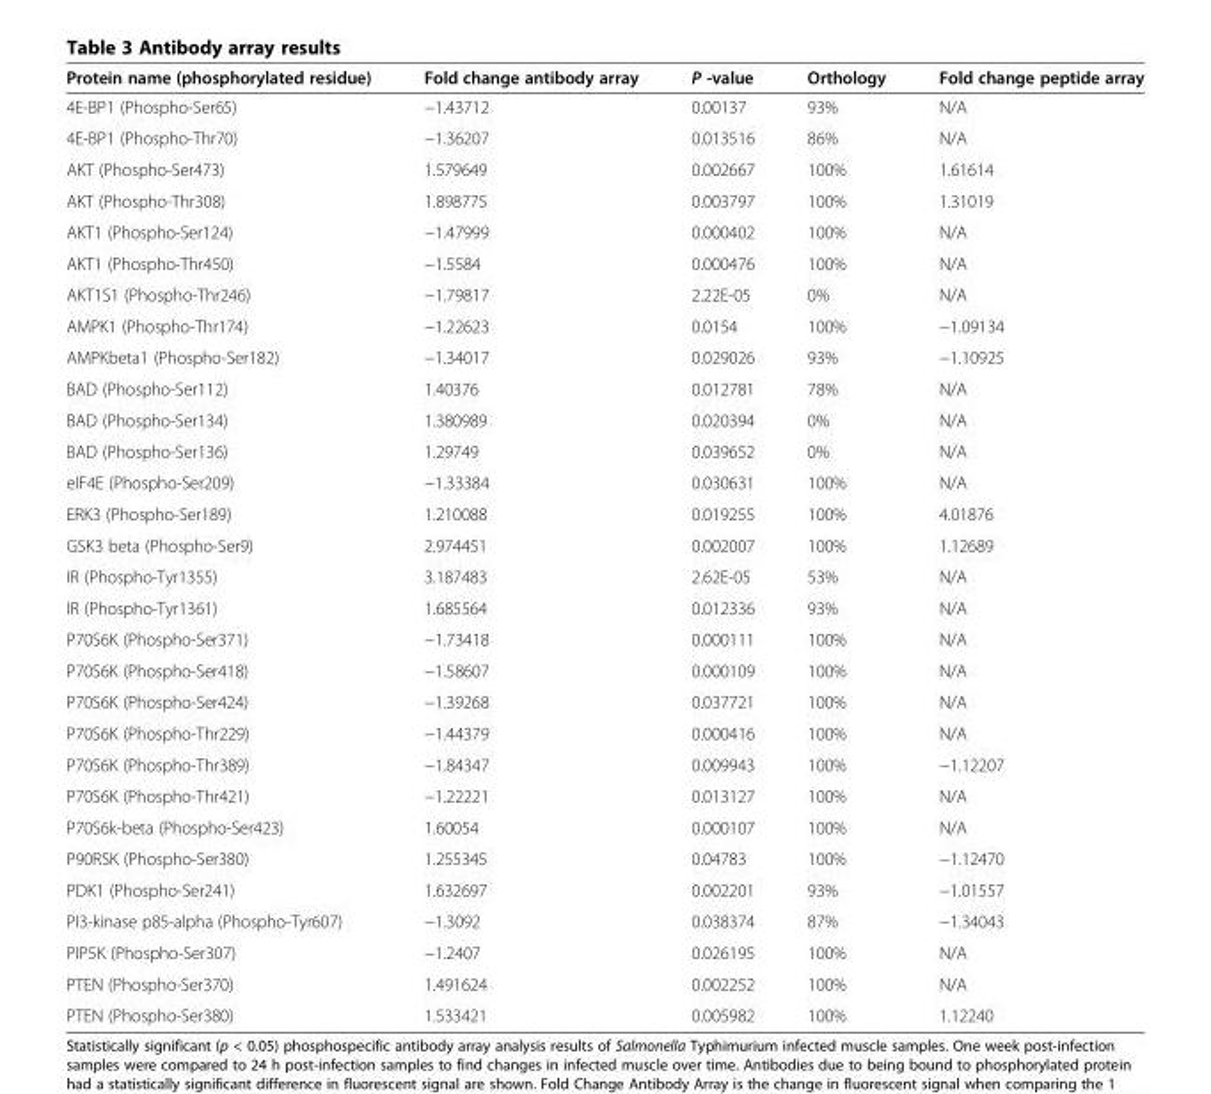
<table><thead><tr><td>Protein name (phosphorylated residue)</td><td>Fold change antibody array</td><td>P -value</td><td>Orthology</td><td>Fold change peptide array</td></tr></thead><tbody><tr><td>4E-BP1 (Phospho-Ser65)</td><td>−1.43712</td><td>0.00137</td><td>93%</td><td>N/A</td></tr><tr><td>4E-BP1 (Phospho-Thr70)</td><td>−1.36207</td><td>0.013516</td><td>86%</td><td>N/A</td></tr><tr><td>AKT (Phospho-Ser473)</td><td>1.579649</td><td>0.002667</td><td>100%</td><td>1.61614</td></tr><tr><td>AKT (Phospho-Thr308)</td><td>1.898775</td><td>0.003797</td><td>100%</td><td>1.31019</td></tr><tr><td>AKT1 (Phospho-Ser124)</td><td>−1.47999</td><td>0.000402</td><td>100%</td><td>N/A</td></tr><tr><td>AKT1 (Phospho-Thr450)</td><td>−1.5584</td><td>0.000476</td><td>100%</td><td>N/A</td></tr><tr><td>AKT1S1 (Phospho-Thr246)</td><td>−1.79817</td><td>2.22E-05</td><td>0%</td><td>N/A</td></tr><tr><td>AMPK1 (Phospho-Thr174)</td><td>−1.22623</td><td>0.0154</td><td>100%</td><td>−1.09134</td></tr><tr><td>AMPKbeta1 (Phospho-Ser182)</td><td>−1.34017</td><td>0.029026</td><td>93%</td><td>−1.10925</td></tr><tr><td>BAD (Phospho-Ser112)</td><td>1.40376</td><td>0.012781</td><td>78%</td><td>N/A</td></tr><tr><td>BAD (Phospho-Ser134)</td><td>1.380989</td><td>0.020394</td><td>0%</td><td>N/A</td></tr><tr><td>BAD (Phospho-Ser136)</td><td>1.29749</td><td>0.039652</td><td>0%</td><td>N/A</td></tr><tr><td>eIF4E (Phospho-Ser209)</td><td>−1.33384</td><td>0.030631</td><td>100%</td><td>N/A</td></tr><tr><td>ERK3 (Phospho-Ser189)</td><td>1.210088</td><td>0.019255</td><td>100%</td><td>4.01876</td></tr><tr><td>GSK3 beta (Phospho-Ser9)</td><td>2.974451</td><td>0.002007</td><td>100%</td><td>1.12689</td></tr><tr><td>IR (Phospho-Tyr1355)</td><td>3.187483</td><td>2.62E-05</td><td>53%</td><td>N/A</td></tr><tr><td>IR (Phospho-Tyr1361)</td><td>1.685564</td><td>0.012336</td><td>93%</td><td>N/A</td></tr><tr><td>P70S6K (Phospho-Ser371)</td><td>−1.73418</td><td>0.000111</td><td>100%</td><td>N/A</td></tr><tr><td>P70S6K (Phospho-Ser418)</td><td>−1.58607</td><td>0.000109</td><td>100%</td><td>N/A</td></tr><tr><td>P70S6K (Phospho-Ser424)</td><td>−1.39268</td><td>0.037721</td><td>100%</td><td>N/A</td></tr><tr><td>P70S6K (Phospho-Thr229)</td><td>−1.44379</td><td>0.000416</td><td>100%</td><td>N/A</td></tr><tr><td>P70S6K (Phospho-Thr389)</td><td>−1.84347</td><td>0.009943</td><td>100%</td><td>−1.12207</td></tr><tr><td>P70S6K (Phospho-Thr421)</td><td>−1.22221</td><td>0.013127</td><td>100%</td><td>N/A</td></tr><tr><td>P70S6k-beta (Phospho-Ser423)</td><td>1.60054</td><td>0.000107</td><td>100%</td><td>N/A</td></tr><tr><td>P90RSK (Phospho-Ser380)</td><td>1.255345</td><td>0.04783</td><td>100%</td><td>−1.12470</td></tr><tr><td>PDK1 (Phospho-Ser241)</td><td>1.632697</td><td>0.002201</td><td>93%</td><td>−1.01557</td></tr><tr><td>PI3-kinase p85-alpha (Phospho-Tyr607)</td><td>−1.3092</td><td>0.038374</td><td>87%</td><td>−1.34043</td></tr><tr><td>PIP5K (Phospho-Ser307)</td><td>−1.2407</td><td>0.026195</td><td>100%</td><td>N/A</td></tr><tr><td>PTEN (Phospho-Ser370)</td><td>1.491624</td><td>0.002252</td><td>100%</td><td>N/A</td></tr><tr><td>PTEN (Phospho-Ser380)</td><td>1.533421</td><td>0.005982</td><td>100%</td><td>1.12240</td></tr></tbody></table>